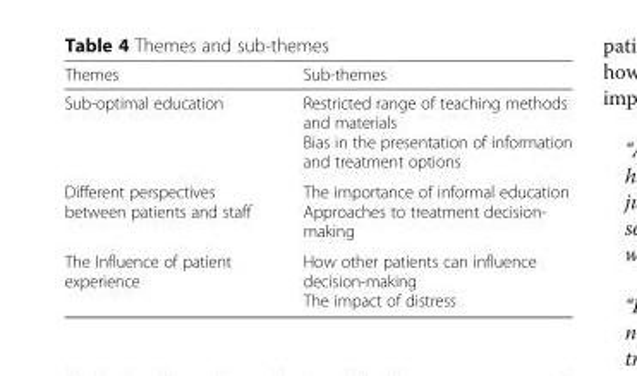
<table><thead><tr><td>Themes</td><td>Sub-themes</td></tr></thead><tbody><tr><td>Sub-optimal education</td><td>Restricted range of teaching methods and materials Bias in the presentation of information and treatment options</td></tr><tr><td>Different perspectives between patients and staff</td><td>The importance of informal education Approaches to treatment decision- making</td></tr><tr><td>The Influence of patient experience</td><td>How other patients can influence decision-making The impact of distress</td></tr></tbody></table>